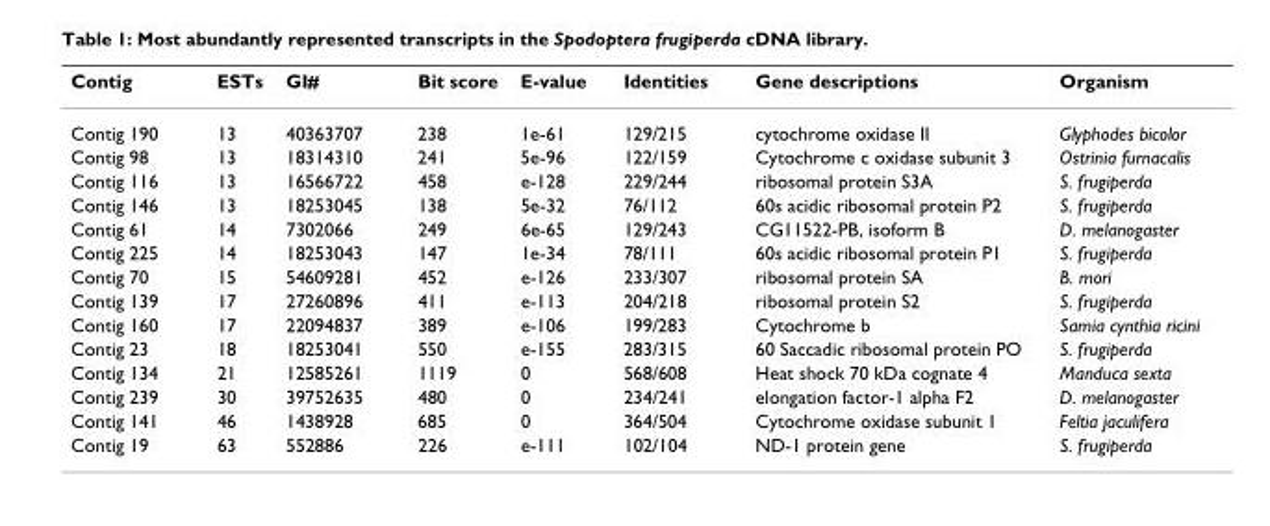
<table><thead><tr><td>Contig</td><td>ESTs</td><td>GI#</td><td>Bit score</td><td>E-value</td><td>Identities</td><td>Gene descriptions</td><td>Organism</td></tr></thead><tbody><tr><td>Contig 190</td><td>13</td><td>40363707</td><td>238</td><td>1e-61</td><td>129/215</td><td>cytochrome oxidase II</td><td>Glyphodes bicolor</td></tr><tr><td>Contig 98</td><td>13</td><td>18314310</td><td>241</td><td>5e-96</td><td>122/159</td><td>Cytochrome c oxidase subunit 3</td><td>Ostrinia furnacalis</td></tr><tr><td>Contig 116</td><td>13</td><td>16566722</td><td>458</td><td>e-128</td><td>229/244</td><td>ribosomal protein S3A</td><td>S. frugiperda</td></tr><tr><td>Contig 146</td><td>13</td><td>18253045</td><td>138</td><td>5e-32</td><td>76/112</td><td>60s acidic ribosomal protein P2</td><td>S. frugiperda</td></tr><tr><td>Contig 61</td><td>14</td><td>7302066</td><td>249</td><td>6e-65</td><td>129/243</td><td>CG11522-PB, isoform B</td><td>D. melanogaster</td></tr><tr><td>Contig 225</td><td>14</td><td>18253043</td><td>147</td><td>1e-34</td><td>78/111</td><td>60s acidic ribosomal protein P1</td><td>S. frugiperda</td></tr><tr><td>Contig 70</td><td>15</td><td>54609281</td><td>452</td><td>e-126</td><td>233/307</td><td>ribosomal protein SA</td><td>B. mori</td></tr><tr><td>Contig 139</td><td>17</td><td>27260896</td><td>411</td><td>e-113</td><td>204/218</td><td>ribosomal protein S2</td><td>S. frugiperda</td></tr><tr><td>Contig 160</td><td>17</td><td>22094837</td><td>389</td><td>e-106</td><td>199/283</td><td>Cytochrome b</td><td>Samia cynthia ricini</td></tr><tr><td>Contig 23</td><td>18</td><td>18253041</td><td>550</td><td>e-155</td><td>283/315</td><td>60 Saccadic ribosomal protein PO</td><td>S. frugiperda</td></tr><tr><td>Contig 134</td><td>21</td><td>12585261</td><td>1119</td><td>0</td><td>568/608</td><td>Heat shock 70 kDa cognate 4</td><td>Manduca sexta</td></tr><tr><td>Contig 239</td><td>30</td><td>39752635</td><td>480</td><td>0</td><td>234/241</td><td>elongation factor-1 alpha F2</td><td>D. melanogaster</td></tr><tr><td>Contig 141</td><td>46</td><td>1438928</td><td>685</td><td>0</td><td>364/504</td><td>Cytochrome oxidase subunit 1</td><td>Feltia jaculifera</td></tr><tr><td>Contig 19</td><td>63</td><td>552886</td><td>226</td><td>e-111</td><td>102/104</td><td>ND-1 protein gene</td><td>S. frugiperda</td></tr></tbody></table>